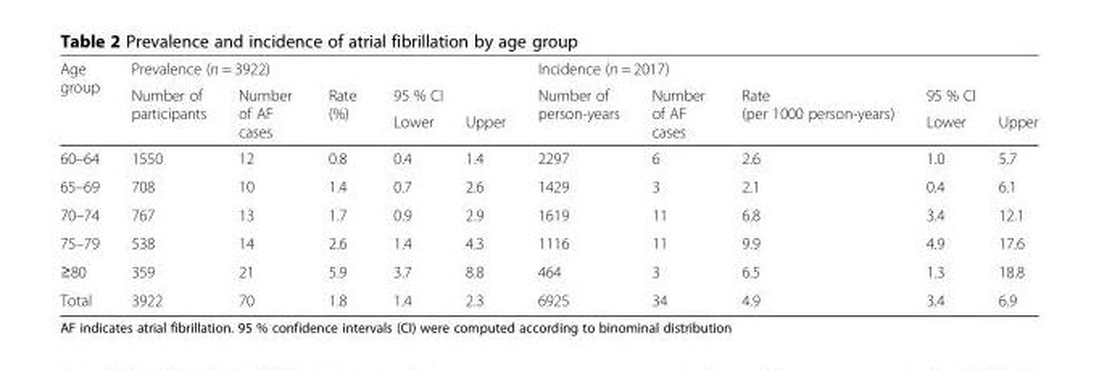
<table><thead><tr><td rowspan="3">Age group</td><td colspan="5">Prevalence (n = 3922)</td><td colspan="5">Incidence (n = 2017)</td></tr><tr><td rowspan="2">Number of participants</td><td rowspan="2">Number of AF cases</td><td rowspan="2">Rate (%)</td><td colspan="2">95 % CI</td><td rowspan="2">Number of person-years</td><td rowspan="2">Number of AF cases</td><td rowspan="2">Rate (per 1000 person-years)</td><td colspan="2">95 % CI</td></tr><tr><td>Lower</td><td>Upper</td><td>Lower</td><td>Upper</td></tr></thead><tbody><tr><td>60–64</td><td>1550</td><td>12</td><td>0.8</td><td>0.4</td><td>1.4</td><td>2297</td><td>6</td><td>2.6</td><td>1.0</td><td>5.7</td></tr><tr><td>65–69</td><td>708</td><td>10</td><td>1.4</td><td>0.7</td><td>2.6</td><td>1429</td><td>3</td><td>2.1</td><td>0.4</td><td>6.1</td></tr><tr><td>70–74</td><td>767</td><td>13</td><td>1.7</td><td>0.9</td><td>2.9</td><td>1619</td><td>11</td><td>6.8</td><td>3.4</td><td>12.1</td></tr><tr><td>75–79</td><td>538</td><td>14</td><td>2.6</td><td>1.4</td><td>4.3</td><td>1116</td><td>11</td><td>9.9</td><td>4.9</td><td>17.6</td></tr><tr><td>≥80</td><td>359</td><td>21</td><td>5.9</td><td>3.7</td><td>8.8</td><td>464</td><td>3</td><td>6.5</td><td>1.3</td><td>18.8</td></tr><tr><td>Total</td><td>3922</td><td>70</td><td>1.8</td><td>1.4</td><td>2.3</td><td>6925</td><td>34</td><td>4.9</td><td>3.4</td><td>6.9</td></tr></tbody></table>